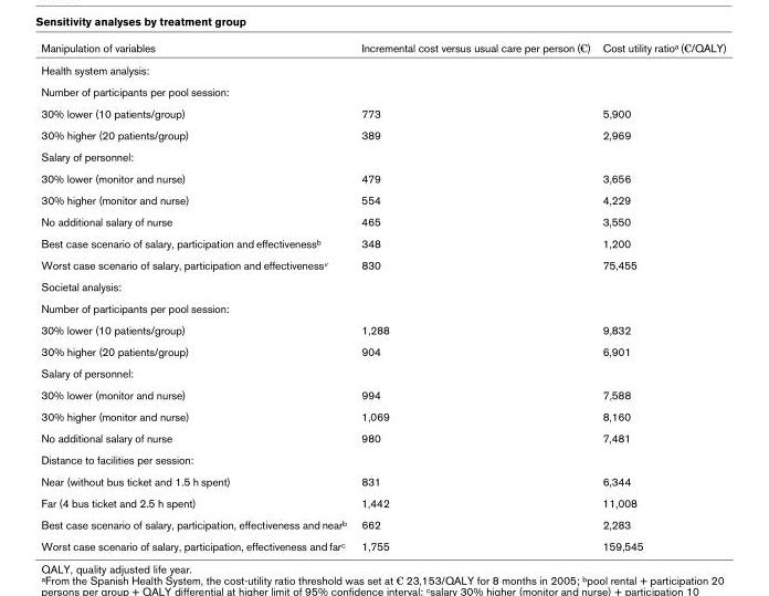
<table><thead><tr><td>Manipulation of variables</td><td>Incremental cost versus usual care per person (€)</td><td>Cost utility ratio<sup>a</sup> (€/QALY)</td></tr></thead><tbody><tr><td colspan="3">Health system analysis:</td></tr><tr><td colspan="3">Number of participants per pool session:</td></tr><tr><td>30% lower (10 patients/group)</td><td>773</td><td>5,900</td></tr><tr><td>30% higher (20 patients/group)</td><td>389</td><td>2,969</td></tr><tr><td colspan="3">Salary of personnel:</td></tr><tr><td>30% lower (monitor and nurse)</td><td>479</td><td>3,656</td></tr><tr><td>30% higher (monitor and nurse)</td><td>554</td><td>4,229</td></tr><tr><td>No additional salary of nurse</td><td>465</td><td>3,550</td></tr><tr><td>Best case scenario of salary, participation and effectiveness<sup>b</sup></td><td>348</td><td>1,200</td></tr><tr><td>Worst case scenario of salary, participation and effectiveness<sup>v</sup></td><td>830</td><td>75,455</td></tr><tr><td colspan="3">Societal analysis:</td></tr><tr><td colspan="3">Number of participants per pool session:</td></tr><tr><td>30% lower (10 patients/group)</td><td>1,288</td><td>9,832</td></tr><tr><td>30% higher (20 patients/group)</td><td>904</td><td>6,901</td></tr><tr><td colspan="3">Salary of personnel:</td></tr><tr><td>30% lower (monitor and nurse)</td><td>994</td><td>7,588</td></tr><tr><td>30% higher (monitor and nurse)</td><td>1,069</td><td>8,160</td></tr><tr><td>No additional salary of nurse</td><td>980</td><td>7,481</td></tr><tr><td colspan="3">Distance to facilities per session:</td></tr><tr><td>Near (without bus ticket and 1.5 h spent)</td><td>831</td><td>6,344</td></tr><tr><td>Far (4 bus ticket and 2.5 h spent)</td><td>1,442</td><td>11,008</td></tr><tr><td>Best case scenario of salary, participation, effectiveness and near<sup>b</sup></td><td>662</td><td>2,283</td></tr><tr><td>Worst case scenario of salary, participation, effectiveness and far<sup>c</sup></td><td>1,755</td><td>159,545</td></tr></tbody></table>